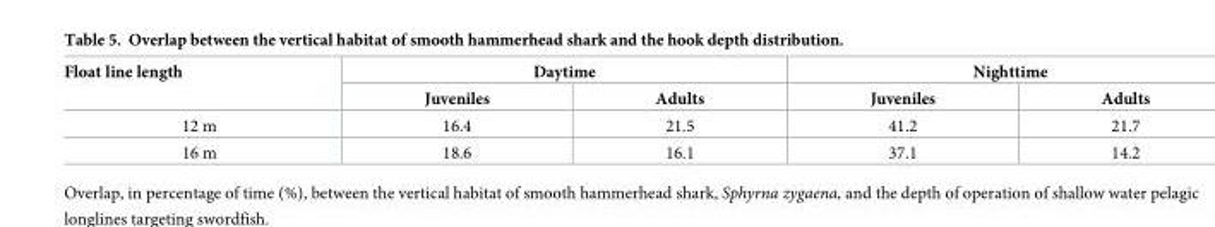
<table><thead><tr><td rowspan="2">Float line length</td><td colspan="2">Daytime</td><td colspan="2">Nighttime</td></tr><tr><td>Juveniles</td><td>Adults</td><td>Juveniles</td><td>Adults</td></tr></thead><tbody><tr><td>12 m</td><td>16.4</td><td>21.5</td><td>41.2</td><td>21.7</td></tr><tr><td>16 m</td><td>18.6</td><td>16.1</td><td>37.1</td><td>14.2</td></tr></tbody></table>